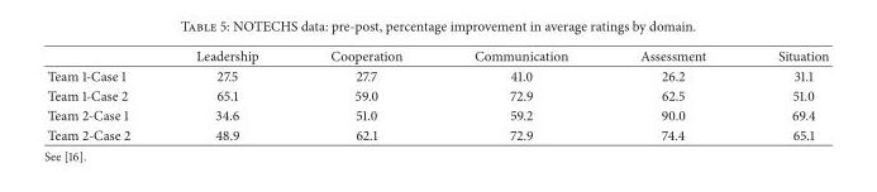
<table><thead><tr><td></td><td>Leadership</td><td>Cooperation</td><td>Communication</td><td>Assessment</td><td>Situation</td></tr></thead><tbody><tr><td>Team 1-Case 1</td><td>27.5</td><td>27.7</td><td>41.0</td><td>26.2</td><td>31.1</td></tr><tr><td>Team 1-Case 2</td><td>65.1</td><td>59.0</td><td>72.9</td><td>62.5</td><td>51.0</td></tr><tr><td>Team 2-Case 1</td><td>34.6</td><td>51.0</td><td>59.2</td><td>90.0</td><td>69.4</td></tr><tr><td>Team 2-Case 2</td><td>48.9</td><td>62.1</td><td>72.9</td><td>74.4</td><td>65.1</td></tr></tbody></table>